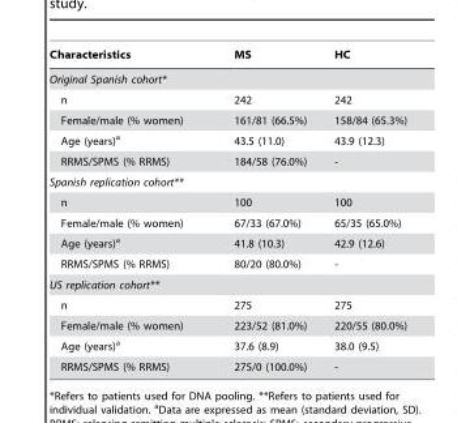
<table><thead><tr><td>Characteristics</td><td>MS</td><td>HC</td></tr></thead><tbody><tr><td colspan="3">Original Spanish cohort*</td></tr><tr><td>n</td><td>242</td><td>242</td></tr><tr><td>Female/male (% women)</td><td>161/81 (66.5%)</td><td>158/84 (65.3%)</td></tr><tr><td>Age (years)<sup>a</sup></td><td>43.5 (11.0)</td><td>43.9 (12.3)</td></tr><tr><td>RRMS/SPMS (% RRMS)</td><td>184/58 (76.0%)</td><td>-</td></tr><tr><td colspan="3">Spanish replication cohort**</td></tr><tr><td>n</td><td>100</td><td>100</td></tr><tr><td>Female/male (% women)</td><td>67/33 (67.0%)</td><td>65/35 (65.0%)</td></tr><tr><td>Age (years)<sup>a</sup></td><td>41.8 (10.3)</td><td>42.9 (12.6)</td></tr><tr><td>RRMS/SPMS (% RRMS)</td><td>80/20 (80.0%)</td><td>-</td></tr><tr><td colspan="3">US replication cohort**</td></tr><tr><td>n</td><td>275</td><td>275</td></tr><tr><td>Female/male (% women)</td><td>223/52 (81.0%)</td><td>220/55 (80.0%)</td></tr><tr><td>Age (years)<sup>a</sup></td><td>37.6 (8.9)</td><td>38.0 (9.5)</td></tr><tr><td>RRMS/SPMS (% RRMS)</td><td>275/0 (100.0%)</td><td>-</td></tr></tbody></table>